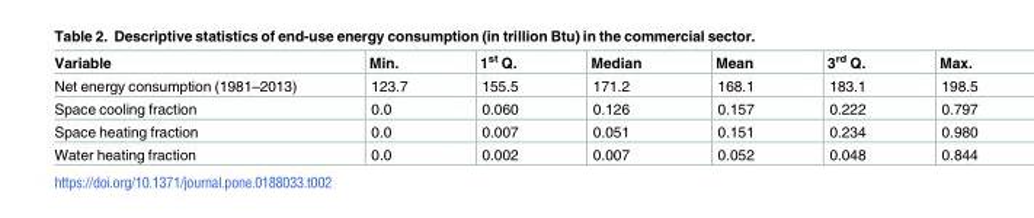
<table><thead><tr><td>Variable</td><td>Min.</td><td>1<sup>st</sup> Q.</td><td>Median</td><td>Mean</td><td>3<sup>rd</sup> Q.</td><td>Max.</td></tr></thead><tbody><tr><td>Net energy consumption (1981–2013)</td><td>123.7</td><td>155.5</td><td>171.2</td><td>168.1</td><td>183.1</td><td>198.5</td></tr><tr><td>Space cooling fraction</td><td>0.0</td><td>0.060</td><td>0.126</td><td>0.157</td><td>0.222</td><td>0.797</td></tr><tr><td>Space heating fraction</td><td>0.0</td><td>0.007</td><td>0.051</td><td>0.151</td><td>0.234</td><td>0.980</td></tr><tr><td>Water heating fraction</td><td>0.0</td><td>0.002</td><td>0.007</td><td>0.052</td><td>0.048</td><td>0.844</td></tr></tbody></table>